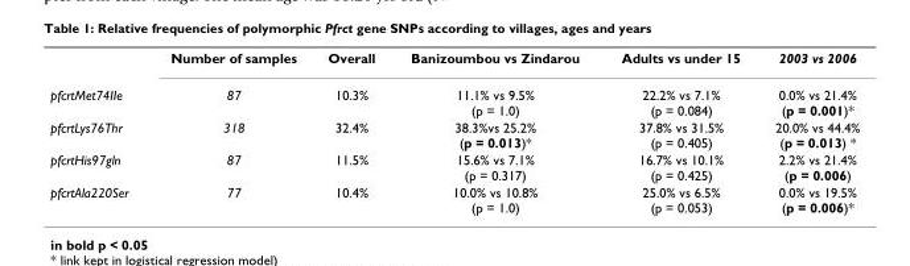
<table><thead><tr><td></td><td>Number of samples</td><td>Overall</td><td>Banizoumbou vs Zindarou</td><td>Adults vs under 15</td><td>2003 vs 2006</td></tr></thead><tbody><tr><td>pfcrtMet74IIe</td><td>87</td><td>10.3%</td><td>11.1% vs 9.5% (p = 1.0)</td><td>22.2% vs 7.1% (p = 0.084)</td><td>0.0% vs 21.4% (p = 0.001)*</td></tr><tr><td>pfcrtLys76Thr</td><td>318</td><td>32.4%</td><td>38.3%vs 25.2% (p = 0.013)*</td><td>37.8% vs 31.5% (p = 0.405)</td><td>20.0% vs 44.4% (p = 0.013) *</td></tr><tr><td>pfcrtHis97gln</td><td>87</td><td>11.5%</td><td>15.6% vs 7.1% (p = 0.317)</td><td>16.7% vs 10.1% (p = 0.425)</td><td>2.2% vs 21.4% (p = 0.006)</td></tr><tr><td>pfcrtAla220Ser</td><td>77</td><td>10.4%</td><td>10.0% vs 10.8% (p = 1.0)</td><td>25.0% vs 6.5% (p = 0.053)</td><td>0.0% vs 19.5% (p = 0.006)*</td></tr></tbody></table>